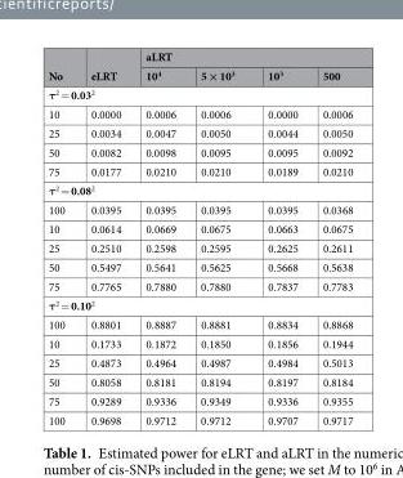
<table><thead><tr><td rowspan="2">No</td><td rowspan="2">eLRT</td><td colspan="4">aLRT</td></tr><tr><td>10<sup>4</sup></td><td>5 × 10<sup>3</sup></td><td>10<sup>3</sup></td><td>500</td></tr></thead><tbody><tr><td colspan="6">τ<sup>2</sup> = 0.03<sup>2</sup></td></tr><tr><td>10</td><td>0.0000</td><td>0.0006</td><td>0.0006</td><td>0.0000</td><td>0.0006</td></tr><tr><td>25</td><td>0.0034</td><td>0.0047</td><td>0.0050</td><td>0.0044</td><td>0.0050</td></tr><tr><td>50</td><td>0.0082</td><td>0.0098</td><td>0.0095</td><td>0.0095</td><td>0.0092</td></tr><tr><td>75</td><td>0.0177</td><td>0.0210</td><td>0.0210</td><td>0.0189</td><td>0.0210</td></tr><tr><td colspan="6">τ<sup>2</sup> = 0.08<sup>2</sup></td></tr><tr><td>100</td><td>0.0395</td><td>0.0395</td><td>0.0395</td><td>0.0395</td><td>0.0368</td></tr><tr><td>10</td><td>0.0614</td><td>0.0669</td><td>0.0675</td><td>0.0663</td><td>0.0675</td></tr><tr><td>25</td><td>0.2510</td><td>0.2598</td><td>0.2595</td><td>0.2625</td><td>0.2611</td></tr><tr><td>50</td><td>0.5497</td><td>0.5641</td><td>0.5625</td><td>0.5668</td><td>0.5638</td></tr><tr><td>75</td><td>0.7765</td><td>0.7880</td><td>0.7880</td><td>0.7837</td><td>0.7783</td></tr><tr><td colspan="6">τ<sup>2</sup> = 0.10<sup>2</sup></td></tr><tr><td>100</td><td>0.8801</td><td>0.8887</td><td>0.8881</td><td>0.8834</td><td>0.8868</td></tr><tr><td>10</td><td>0.1733</td><td>0.1872</td><td>0.1850</td><td>0.1856</td><td>0.1944</td></tr><tr><td>25</td><td>0.4873</td><td>0.4964</td><td>0.4987</td><td>0.4984</td><td>0.5013</td></tr><tr><td>50</td><td>0.8058</td><td>0.8181</td><td>0.8194</td><td>0.8197</td><td>0.8184</td></tr><tr><td>75</td><td>0.9289</td><td>0.9336</td><td>0.9349</td><td>0.9336</td><td>0.9355</td></tr><tr><td>100</td><td>0.9698</td><td>0.9712</td><td>0.9712</td><td>0.9707</td><td>0.9717</td></tr></tbody></table>